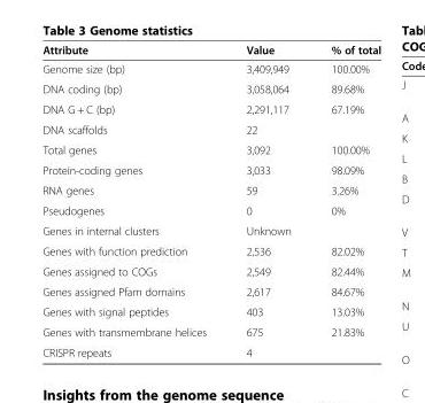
<table><thead><tr><td>Attribute</td><td>Value</td><td>% of total</td></tr></thead><tbody><tr><td>Genome size (bp)</td><td>3,409,949</td><td>100.00%</td></tr><tr><td>DNA coding (bp)</td><td>3,058,064</td><td>89.68%</td></tr><tr><td>DNA G + C (bp)</td><td>2,291,117</td><td>67.19%</td></tr><tr><td>DNA scaffolds</td><td>22</td><td></td></tr><tr><td>Total genes</td><td>3,092</td><td>100.00%</td></tr><tr><td>Protein-coding genes</td><td>3,033</td><td>98.09%</td></tr><tr><td>RNA genes</td><td>59</td><td>3.26%</td></tr><tr><td>Pseudogenes</td><td>0</td><td>0%</td></tr><tr><td>Genes in internal clusters</td><td>Unknown</td><td></td></tr><tr><td>Genes with function prediction</td><td>2,536</td><td>82.02%</td></tr><tr><td>Genes assigned to COGs</td><td>2,549</td><td>82.44%</td></tr><tr><td>Genes assigned Pfam domains</td><td>2,617</td><td>84.67%</td></tr><tr><td>Genes with signal peptides</td><td>403</td><td>13.03%</td></tr><tr><td>Genes with transmembrane helices</td><td>675</td><td>21.83%</td></tr><tr><td>CRISPR repeats</td><td>4</td><td></td></tr></tbody></table>